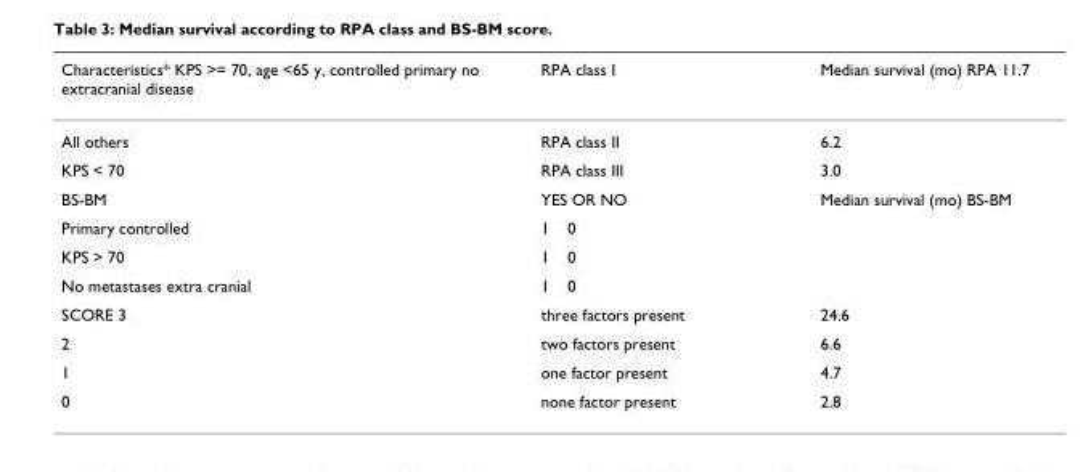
<table><thead><tr><td>Characteristics* KPS &gt;= 70, age &lt;65 y, controlled primary no extracranial disease</td><td colspan="2">RPA class I</td><td>Median survival (mo) RPA 11.7</td></tr></thead><tbody><tr><td>All others</td><td colspan="2">RPA class II</td><td>6.2</td></tr><tr><td>KPS &lt; 70</td><td colspan="2">RPA class III</td><td>3.0</td></tr><tr><td>BS-BM</td><td colspan="2">YES OR NO</td><td>Median survival (mo) BS-BM</td></tr><tr><td>Primary controlled</td><td>1</td><td>0</td><td></td></tr><tr><td>KPS &gt; 70</td><td>1</td><td>0</td><td></td></tr><tr><td>No metastases extra cranial</td><td>1</td><td>0</td><td></td></tr><tr><td>SCORE 3</td><td colspan="2">three factors present</td><td>24.6</td></tr><tr><td>2</td><td colspan="2">two factors present</td><td>6.6</td></tr><tr><td>1</td><td colspan="2">one factor present</td><td>4.7</td></tr><tr><td>0</td><td colspan="2">none factor present</td><td>2.8</td></tr></tbody></table>